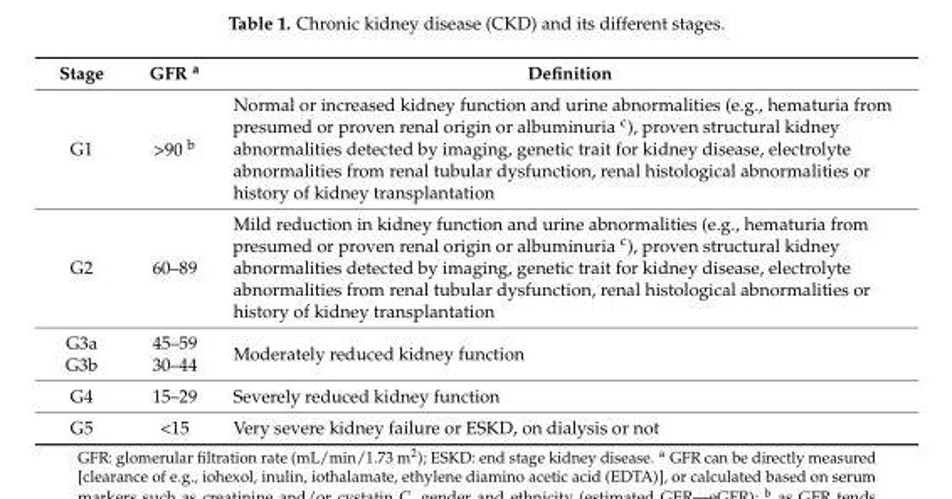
<table><thead><tr><td>Stage</td><td>GFR <sup>a</sup></td><td>Definition</td></tr></thead><tbody><tr><td>G1</td><td>&gt;90 <sup>b</sup></td><td>Normal or increased kidney function and urine abnormalities (e.g., hematuria from presumed or proven renal origin or albuminuria <sup>c</sup>), proven structural kidney abnormalities detected by imaging, genetic trait for kidney disease, electrolyte abnormalities from renal tubular dysfunction, renal histological abnormalities or history of kidney transplantation</td></tr><tr><td>G2</td><td>60–89</td><td>Mild reduction in kidney function and urine abnormalities (e.g., hematuria from presumed or proven renal origin or albuminuria <sup>c</sup>), proven structural kidney abnormalities detected by imaging, genetic trait for kidney disease, electrolyte abnormalities from renal tubular dysfunction, renal histological abnormalities or history of kidney transplantation</td></tr><tr><td>G3a G3b</td><td>45–59 30–44</td><td>Moderately reduced kidney function</td></tr><tr><td>G4</td><td>15–29</td><td>Severely reduced kidney function</td></tr><tr><td>G5</td><td>&lt;15</td><td>Very severe kidney failure or ESKD, on dialysis or not</td></tr></tbody></table>